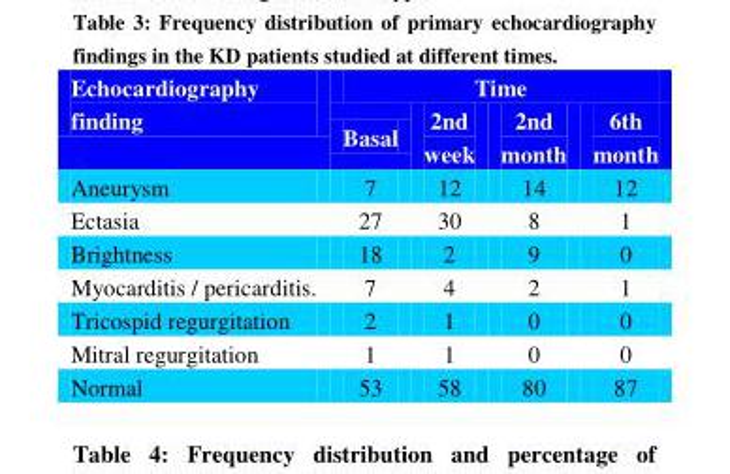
<table><thead><tr><td rowspan="2">Echocardiography finding</td><td colspan="4">Time</td></tr><tr><td>Basal</td><td>2nd week</td><td>2nd month</td><td>6th month</td></tr></thead><tbody><tr><td>Aneurysm</td><td>7</td><td>12</td><td>14</td><td>12</td></tr><tr><td>Ectasia</td><td>27</td><td>30</td><td>8</td><td>1</td></tr><tr><td>Brightness</td><td>18</td><td>2</td><td>9</td><td>0</td></tr><tr><td>Myocarditis / pericarditis.</td><td>7</td><td>4</td><td>2</td><td>1</td></tr><tr><td>Tricospid regurgitation</td><td>2</td><td>1</td><td>0</td><td>0</td></tr><tr><td>Mitral regurgitation</td><td>1</td><td>1</td><td>0</td><td>0</td></tr><tr><td>Normal</td><td>53</td><td>58</td><td>80</td><td>87</td></tr></tbody></table>